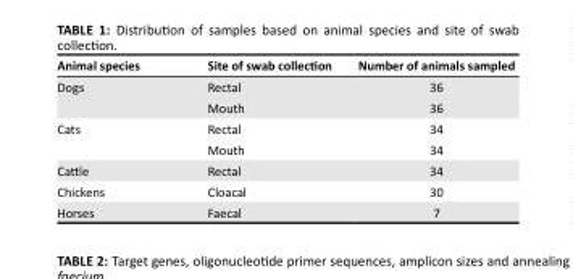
<table><thead><tr><td>Animal species</td><td>Site of swab collection</td><td>Number of animals sampled</td></tr></thead><tbody><tr><td rowspan="2">Dogs</td><td>Rectal</td><td>36</td></tr><tr><td>Mouth</td><td>36</td></tr><tr><td rowspan="2">Cats</td><td>Rectal</td><td>34</td></tr><tr><td>Mouth</td><td>34</td></tr><tr><td>Cattle</td><td>Rectal</td><td>34</td></tr><tr><td>Chickens</td><td>Cloacal</td><td>30</td></tr><tr><td>Horses</td><td>Faecal</td><td>7</td></tr></tbody></table>